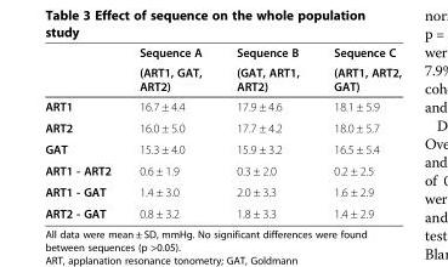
<table><thead><tr><td rowspan="2"></td><td rowspan="2">Sequence A (ART1, GAT, ART2)</td><td rowspan="2">Sequence B (GAT, ART1, ART2)</td><td rowspan="2">Sequence C (ART1, ART2, GAT)</td></tr><tr></tr></thead><tbody><tr><td>ART1</td><td>16.7 ± 4.4</td><td>17.9 ± 4.6</td><td>18.1 ± 5.9</td></tr><tr><td>ART2</td><td>16.0 ± 5.0</td><td>17.7 ± 4.2</td><td>18.0 ± 5.7</td></tr><tr><td>GAT</td><td>15.3 ± 4.0</td><td>15.9 ± 3.2</td><td>16.5 ± 5.4</td></tr><tr><td>ART1 - ART2</td><td>0.6 ± 1.9</td><td>0.3 ± 2.0</td><td>0.2 ± 2.5</td></tr><tr><td>ART1 - GAT</td><td>1.4 ± 3.0</td><td>2.0 ± 3.3</td><td>1.6 ± 2.9</td></tr><tr><td>ART2 - GAT</td><td>0.8 ± 3.2</td><td>1.8 ± 3.3</td><td>1.4 ± 2.9</td></tr></tbody></table>